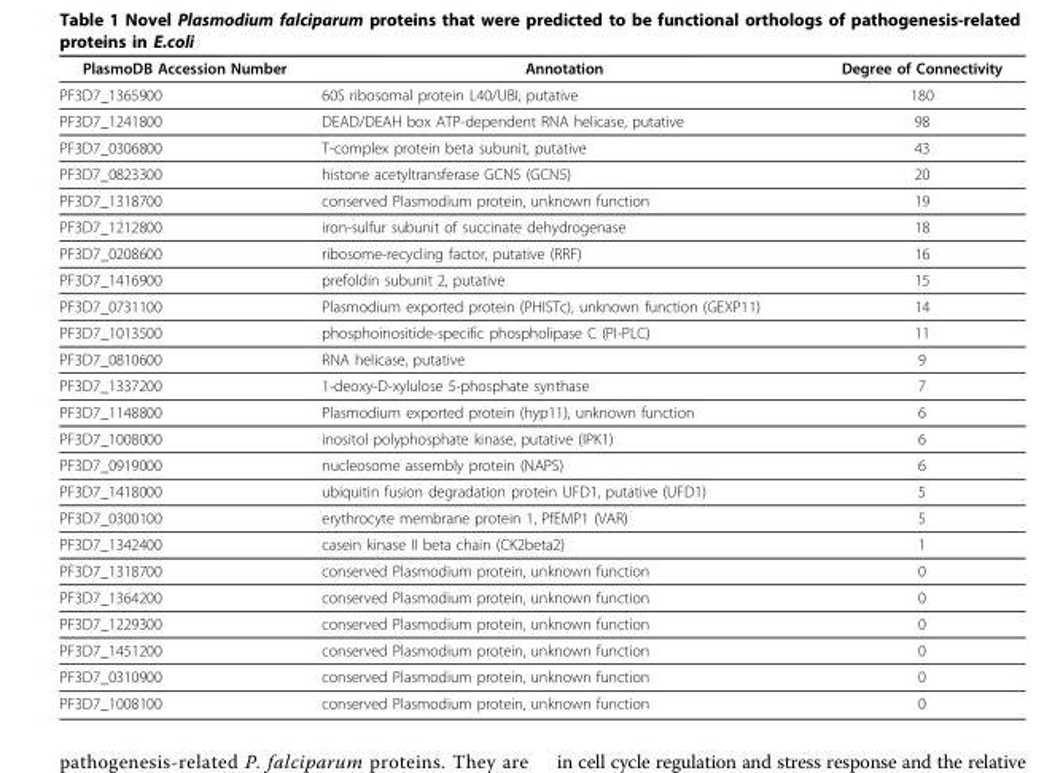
<table><thead><tr><td>PlasmoDB Accession Number</td><td>Annotation</td><td>Degree of Connectivity</td></tr></thead><tbody><tr><td>PF3D7_1365900</td><td>60S ribosomal protein L40/UBI, putative</td><td>180</td></tr><tr><td>PF3D7_1241800</td><td>DEAD/DEAH box ATP-dependent RNA helicase, putative</td><td>98</td></tr><tr><td>PF3D7_0306800</td><td>T-complex protein beta subunit, putative</td><td>43</td></tr><tr><td>PF3D7_0823300</td><td>histone acetyltransferase GCN5 (GCN5)</td><td>20</td></tr><tr><td>PF3D7_1318700</td><td>conserved Plasmodium protein, unknown function</td><td>19</td></tr><tr><td>PF3D7_1212800</td><td>iron-sulfur subunit of succinate dehydrogenase</td><td>18</td></tr><tr><td>PF3D7_0208600</td><td>ribosome-recycling factor, putative (RRF)</td><td>16</td></tr><tr><td>PF3D7_1416900</td><td>prefoldin subunit 2, putative</td><td>15</td></tr><tr><td>PF3D7_0731100</td><td>Plasmodium exported protein (PHISTc), unknown function (GEXP11)</td><td>14</td></tr><tr><td>PF3D7_1013500</td><td>phosphoinositide-specific phospholipase C (PI-PLC)</td><td>11</td></tr><tr><td>PF3D7_0810600</td><td>RNA helicase, putative</td><td>9</td></tr><tr><td>PF3D7_1337200</td><td>1-deoxy-D-xylulose 5-phosphate synthase</td><td>7</td></tr><tr><td>PF3D7_1148800</td><td>Plasmodium exported protein (hyp11), unknown function</td><td>6</td></tr><tr><td>PF3D7_1008000</td><td>inositol polyphosphate kinase, putative (IPK1)</td><td>6</td></tr><tr><td>PF3D7_0919000</td><td>nucleosome assembly protein (NAPS)</td><td>6</td></tr><tr><td>PF3D7_1418000</td><td>ubiquitin fusion degradation protein UFD1, putative (UFD1)</td><td>5</td></tr><tr><td>PF3D7_0300100</td><td>erythrocyte membrane protein 1, PfEMP1 (VAR)</td><td>5</td></tr><tr><td>PF3D7_1342400</td><td>casein kinase II beta chain (CK2beta2)</td><td>1</td></tr><tr><td>PF3D7_1318700</td><td>conserved Plasmodium protein, unknown function</td><td>0</td></tr><tr><td>PF3D7_1364200</td><td>conserved Plasmodium protein, unknown function</td><td>0</td></tr><tr><td>PF3D7_1229300</td><td>conserved Plasmodium protein, unknown function</td><td>0</td></tr><tr><td>PF3D7_1451200</td><td>conserved Plasmodium protein, unknown function</td><td>0</td></tr><tr><td>PF3D7_0310900</td><td>conserved Plasmodium protein, unknown function</td><td>0</td></tr><tr><td>PF3D7_1008100</td><td>conserved Plasmodium protein, unknown function</td><td>0</td></tr></tbody></table>